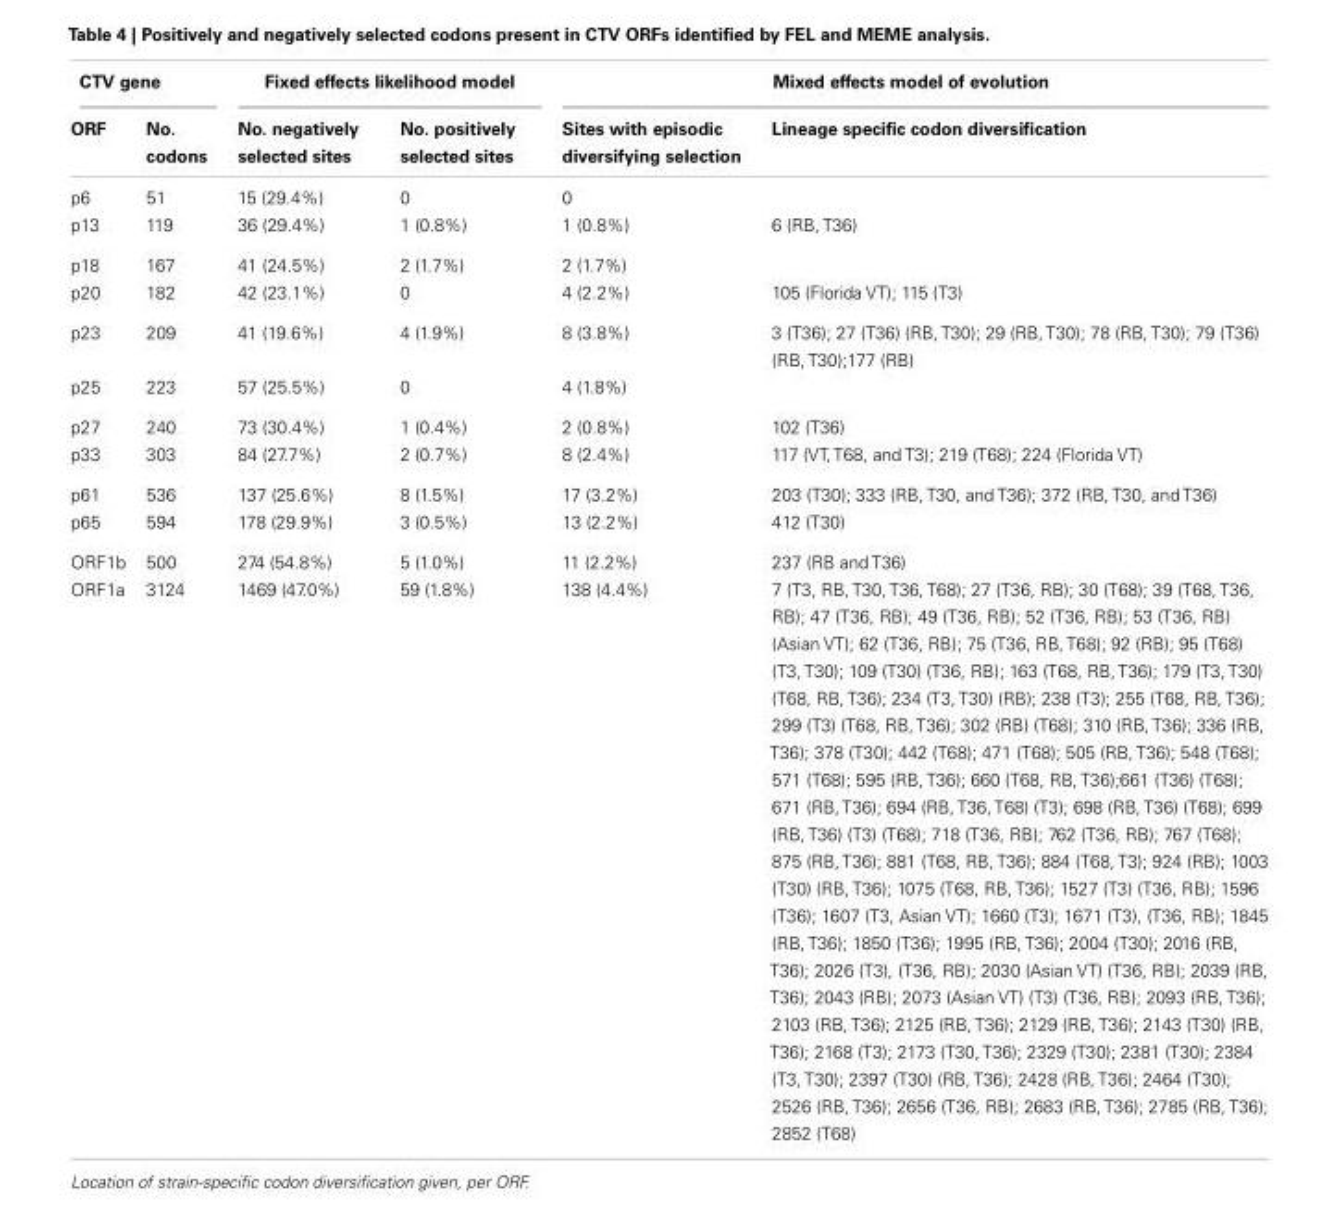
<table><thead><tr><td colspan="2">CTV gene</td><td colspan="2">Fixed effects likelihood model</td><td colspan="2">Mixed effects model of evolution</td></tr><tr><td>ORF</td><td>No. codons</td><td>No. negatively selected sites</td><td>No. positively selected sites</td><td>Sites with episodic diversifying selection</td><td>Lineage specific codon diversification</td></tr></thead><tbody><tr><td>p6</td><td>51</td><td>15 (29.4%)</td><td>0</td><td>0</td><td></td></tr><tr><td>p13</td><td>119</td><td>36 (29.4%)</td><td>1 (0.8%)</td><td>1 (0.8%)</td><td>6 (RB, T36)</td></tr><tr><td>p18</td><td>167</td><td>41 (24.5%)</td><td>2 (1.7%)</td><td>2 (1.7%)</td><td></td></tr><tr><td>p20</td><td>182</td><td>42 (23.1%)</td><td>0</td><td>4 (2.2%)</td><td>105 (Florida VT); 115 (T3)</td></tr><tr><td>p23</td><td>209</td><td>41 (19.6%)</td><td>4 (1.9%)</td><td>8 (3.8%)</td><td>3 (T36); 27 (T36) (RB, T30); 29 (RB, T30); 78 (RB, T30); 79 (T36) (RB, T30);177 (RB)</td></tr><tr><td>p25</td><td>223</td><td>57 (25.5%)</td><td>0</td><td>4 (1.8%)</td><td></td></tr><tr><td>p27</td><td>240</td><td>73 (30.4%)</td><td>1 (0.4%)</td><td>2 (0.8%)</td><td>102 (T36)</td></tr><tr><td>p33</td><td>303</td><td>84 (27.7%)</td><td>2 (0.7%)</td><td>8 (2.4%)</td><td>117 (VT, T68, and T3); 219 (T68); 224 (Florida VT)</td></tr><tr><td>p61</td><td>536</td><td>137 (25.6%)</td><td>8 (1.5%)</td><td>17 (3.2%)</td><td>203 (T30); 333 (RB, T30, and T36); 372 (RB, T30, and T36)</td></tr><tr><td>p65</td><td>594</td><td>178 (29.9%)</td><td>3 (0.5%)</td><td>13 (2.2%)</td><td>412 (T30)</td></tr><tr><td>ORF1b</td><td>500</td><td>274 (54.8%)</td><td>5 (1.0%)</td><td>11 (2.2%)</td><td>237 (RB and T36)</td></tr><tr><td>ORF1a</td><td>3124</td><td>1469 (47.0%)</td><td>59 (1.8%)</td><td>138 (4.4%)</td><td>7 (T3, RB, T30, T36, T68); 27 (T36, RB); 30 (T68); 39 (T68, T36, RB); 47 (T36, RB); 49 (T36, RB); 52 (T36, RB); 53 (T36, RB) (Asian VT); 62 (T36, RB); 75 (T36, RB, T68); 92 (RB); 95 (T68) (T3, T30); 109 (T30) (T36, RB); 163 (T68, RB, T36); 179 (T3, T30) (T68, RB, T36); 234 (T3, T30) (RB); 238 (T3); 255 (T68, RB, T36); 299 (T3) (T68, RB, T36); 302 (RB) (T68); 310 (RB, T36); 336 (RB, T36); 378 (T30); 442 (T68); 471 (T68); 505 (RB, T36); 548 (T68); 571 (T68); 595 (RB, T36); 660 (T68, RB, T36);661 (T36) (T68); 671 (RB, T36); 694 (RB, T36, T68) (T3); 698 (RB, T36) (T68); 699 (RB, T36) (T3) (T68); 718 (T36, RB); 762 (T36, RB); 767 (T68); 875 (RB, T36); 881 (T68, RB, T36); 884 (T68, T3); 924 (RB); 1003 (T30) (RB, T36); 1075 (T68, RB, T36); 1527 (T3) (T36, RB); 1596 (T36); 1607 (T3, Asian VT); 1660 (T3); 1671 (T3), (T36, RB); 1845 (RB, T36); 1850 (T36); 1995 (RB, T36); 2004 (T30); 2016 (RB, T36); 2026 (T3), (T36, RB); 2030 (Asian VT) (T36, RB); 2039 (RB, T36); 2043 (RB); 2073 (Asian VT) (T3) (T36, RB); 2093 (RB, T36); 2103 (RB, T36); 2125 (RB, T36); 2129 (RB, T36); 2143 (T30) (RB, T36); 2168 (T3); 2173 (T30, T36); 2329 (T30); 2381 (T30); 2384 (T3, T30); 2397 (T30) (RB, T36); 2428 (RB, T36); 2464 (T30); 2526 (RB, T36); 2656 (T36, RB); 2683 (RB, T36); 2785 (RB, T36); 2852 (T68)</td></tr></tbody></table>